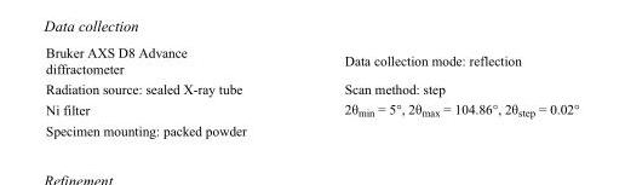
<table><tbody><tr><td>Bruker AXS D8 Advance diffractometer</td><td>Data collection mode: reflection</td></tr><tr><td>Radiation source: sealed X-ray tube</td><td>Scan method: step</td></tr><tr><td>Ni filter</td><td>2θ<sub>min</sub> = 5°, 2θ<sub>max</sub> = 104.86°, 2θ<sub>step</sub> = 0.02°</td></tr><tr><td>Specimen mounting: packed powder</td><td></td></tr></tbody></table>